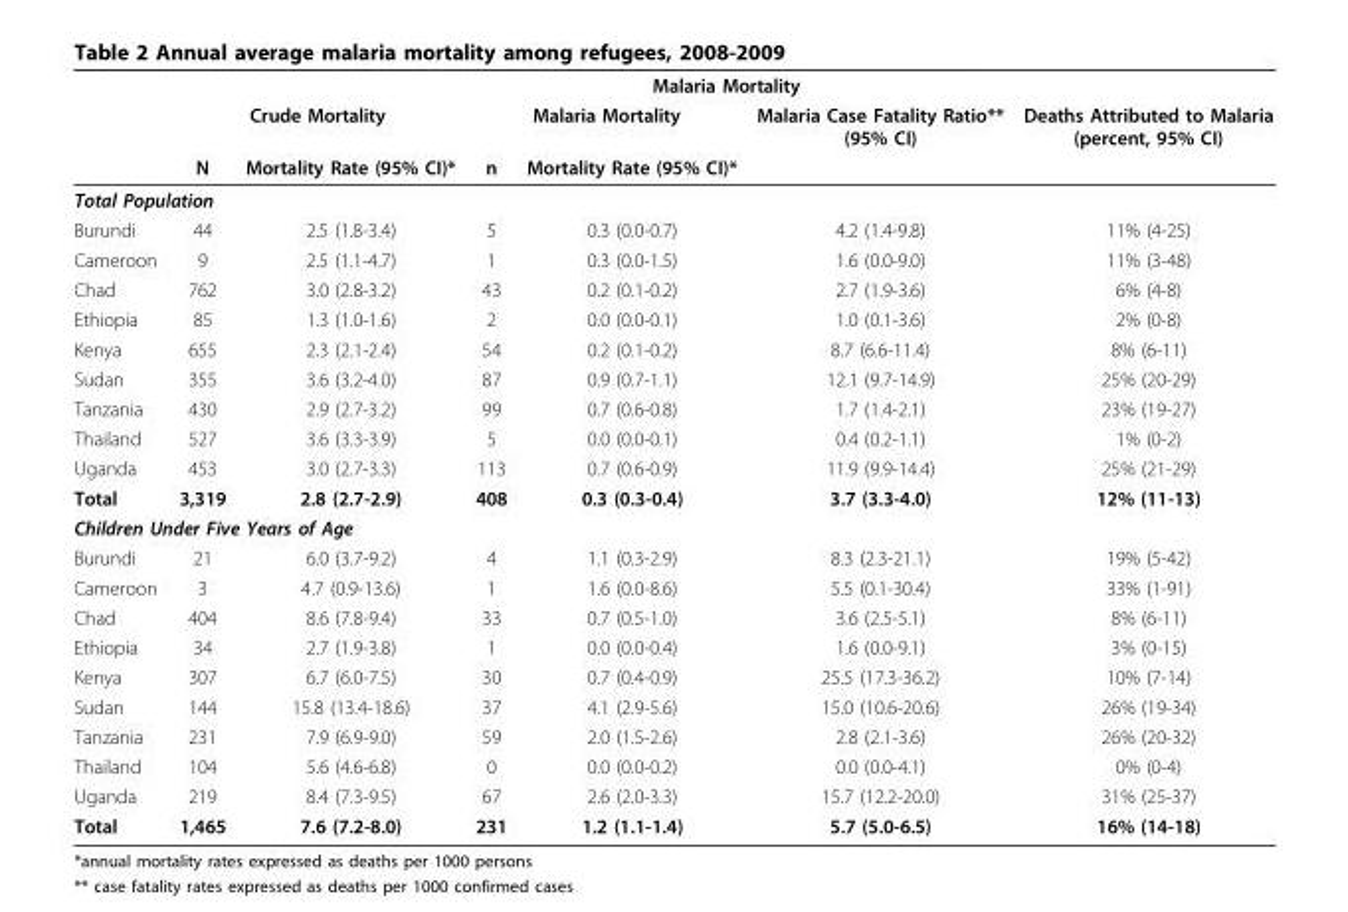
<table><thead><tr><td rowspan="3"></td><td colspan="6">Malaria Mortality</td></tr><tr><td colspan="2">Crude Mortality</td><td colspan="2">Malaria Mortality</td><td rowspan="2">Malaria Case Fatality Ratio** (95% CI)</td><td rowspan="2">Deaths Attributed to Malaria (percent, 95% CI)</td></tr><tr><td>N</td><td>Mortality Rate (95% CI)*</td><td>n</td><td>Mortality Rate (95% CI)*</td></tr></thead><tbody><tr><td colspan="7">Total Population</td></tr><tr><td>Burundi</td><td>44</td><td>2.5 (1.8-3.4)</td><td>5</td><td>0.3 (0.0-0.7)</td><td>4.2 (1.4-9.8)</td><td>11% (4-25)</td></tr><tr><td>Cameroon</td><td>9</td><td>2.5 (1.1-4.7)</td><td>1</td><td>0.3 (0.0-1.5)</td><td>1.6 (0.0-9.0)</td><td>11% (3-48)</td></tr><tr><td>Chad</td><td>762</td><td>3.0 (2.8-3.2)</td><td>43</td><td>0.2 (0.1-0.2)</td><td>2.7 (1.9-3.6)</td><td>6% (4-8)</td></tr><tr><td>Ethiopia</td><td>85</td><td>1.3 (1.0-1.6)</td><td>2</td><td>0.0 (0.0-0.1)</td><td>1.0 (0.1-3.6)</td><td>2% (0-8)</td></tr><tr><td>Kenya</td><td>655</td><td>2.3 (2.1-2.4)</td><td>54</td><td>0.2 (0.1-0.2)</td><td>8.7 (6.6-11.4)</td><td>8% (6-11)</td></tr><tr><td>Sudan</td><td>355</td><td>3.6 (3.2-4.0)</td><td>87</td><td>0.9 (0.7-1.1)</td><td>12.1 (9.7-14.9)</td><td>25% (20-29)</td></tr><tr><td>Tanzania</td><td>430</td><td>2.9 (2.7-3.2)</td><td>99</td><td>0.7 (0.6-0.8)</td><td>1.7 (1.4-2.1)</td><td>23% (19-27)</td></tr><tr><td>Thailand</td><td>527</td><td>3.6 (3.3-3.9)</td><td>5</td><td>0.0 (0.0-0.1)</td><td>0.4 (0.2-1.1)</td><td>1% (0-2)</td></tr><tr><td>Uganda</td><td>453</td><td>3.0 (2.7-3.3)</td><td>113</td><td>0.7 (0.6-0.9)</td><td>11.9 (9.9-14.4)</td><td>25% (21-29)</td></tr><tr><td>Total</td><td>3,319</td><td>2.8 (2.7-2.9)</td><td>408</td><td>0.3 (0.3-0.4)</td><td>3.7 (3.3-4.0)</td><td>12% (11-13)</td></tr><tr><td colspan="7">Children Under Five Years of Age</td></tr><tr><td>Burundi</td><td>21</td><td>6.0 (3.7-9.2)</td><td>4</td><td>1.1 (0.3-2.9)</td><td>8.3 (2.3-21.1)</td><td>19% (5-42)</td></tr><tr><td>Cameroon</td><td>3</td><td>4.7 (0.9-13.6)</td><td>1</td><td>1.6 (0.0-8.6)</td><td>5.5 (0.1-30.4)</td><td>33% (1-91)</td></tr><tr><td>Chad</td><td>404</td><td>8.6 (7.8-9.4)</td><td>33</td><td>0.7 (0.5-1.0)</td><td>3.6 (2.5-5.1)</td><td>8% (6-11)</td></tr><tr><td>Ethiopia</td><td>34</td><td>2.7 (1.9-3.8)</td><td>1</td><td>0.0 (0.0-0.4)</td><td>1.6 (0.0-9.1)</td><td>3% (0-15)</td></tr><tr><td>Kenya</td><td>307</td><td>6.7 (6.0-7.5)</td><td>30</td><td>0.7 (0.4-0.9)</td><td>25.5 (17.3-36.2)</td><td>10% (7-14)</td></tr><tr><td>Sudan</td><td>144</td><td>15.8 (13.4-18.6)</td><td>37</td><td>4.1 (2.9-5.6)</td><td>15.0 (10.6-20.6)</td><td>26% (19-34)</td></tr><tr><td>Tanzania</td><td>231</td><td>7.9 (6.9-9.0)</td><td>59</td><td>2.0 (1.5-2.6)</td><td>2.8 (2.1-3.6)</td><td>26% (20-32)</td></tr><tr><td>Thailand</td><td>104</td><td>5.6 (4.6-6.8)</td><td>0</td><td>0.0 (0.0-0.2)</td><td>0.0 (0.0-4.1)</td><td>0% (0-4)</td></tr><tr><td>Uganda</td><td>219</td><td>8.4 (7.3-9.5)</td><td>67</td><td>2.6 (2.0-3.3)</td><td>15.7 (12.2-20.0)</td><td>31% (25-37)</td></tr><tr><td>Total</td><td>1,465</td><td>7.6 (7.2-8.0)</td><td>231</td><td>1.2 (1.1-1.4)</td><td>5.7 (5.0-6.5)</td><td>16% (14-18)</td></tr></tbody></table>